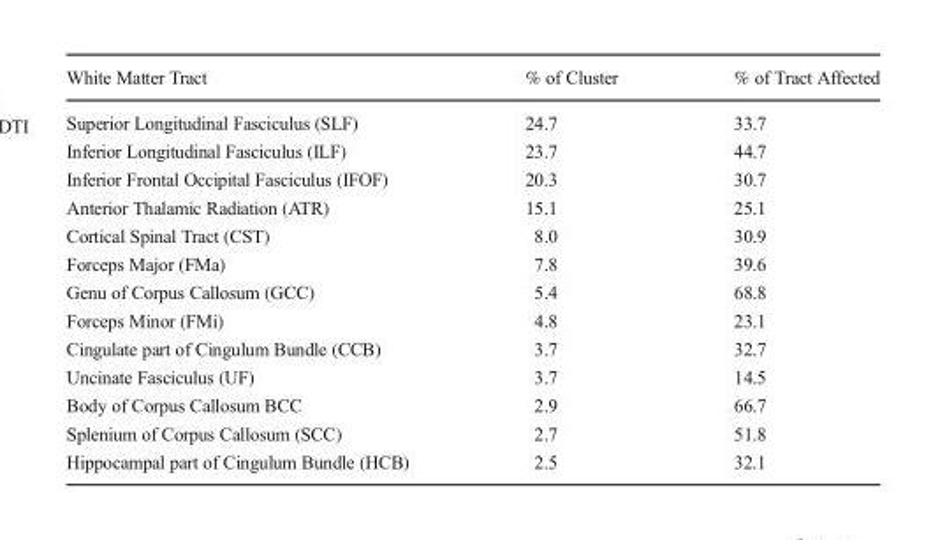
<table><thead><tr><td>White Matter Tract</td><td>% of Cluster</td><td>% of Tract Affected</td></tr></thead><tbody><tr><td>Superior Longitudinal Fasciculus (SLF)</td><td>24.7</td><td>33.7</td></tr><tr><td>Inferior Longitudinal Fasciculus (ILF)</td><td>23.7</td><td>44.7</td></tr><tr><td>Inferior Frontal Occipital Fasciculus (IFOF)</td><td>20.3</td><td>30.7</td></tr><tr><td>Anterior Thalamic Radiation (ATR)</td><td>15.1</td><td>25.1</td></tr><tr><td>Cortical Spinal Tract (CST)</td><td>8.0</td><td>30.9</td></tr><tr><td>Forceps Major (FMa)</td><td>7.8</td><td>39.6</td></tr><tr><td>Genu of Corpus Callosum (GCC)</td><td>5.4</td><td>68.8</td></tr><tr><td>Forceps Minor (FMi)</td><td>4.8</td><td>23.1</td></tr><tr><td>Cingulate part of Cingulum Bundle (CCB)</td><td>3.7</td><td>32.7</td></tr><tr><td>Uncinate Fasciculus (UF)</td><td>3.7</td><td>14.5</td></tr><tr><td>Body of Corpus Callosum BCC</td><td>2.9</td><td>66.7</td></tr><tr><td>Splenium of Corpus Callosum (SCC)</td><td>2.7</td><td>51.8</td></tr><tr><td>Hippocampal part of Cingulum Bundle (HCB)</td><td>2.5</td><td>32.1</td></tr></tbody></table>